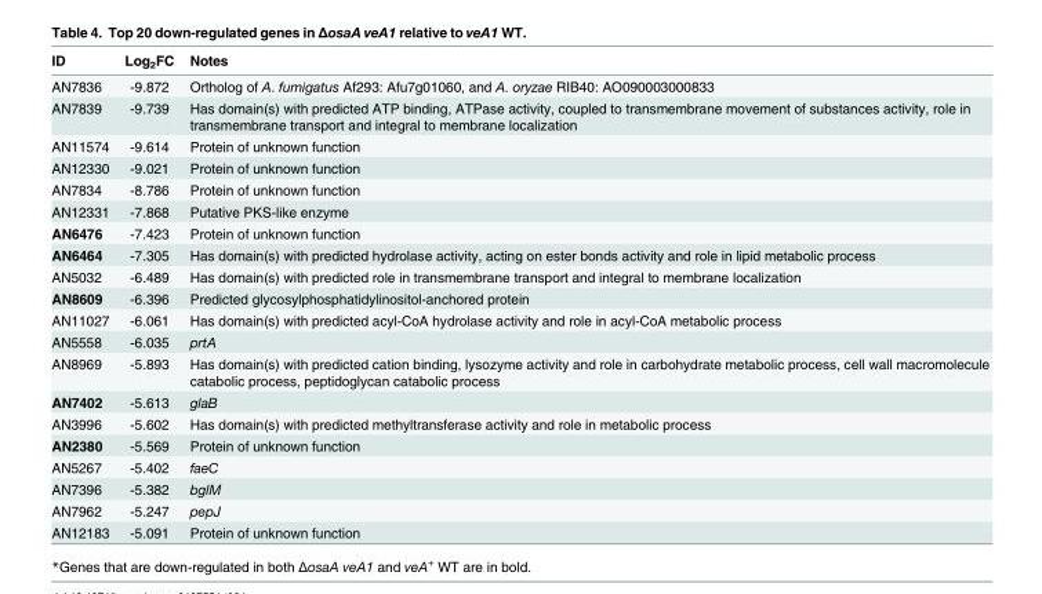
<table><thead><tr><td>ID</td><td>Log<sub>2</sub>FC</td><td>Notes</td></tr></thead><tbody><tr><td>AN7836</td><td>-9.872</td><td>Ortholog of A. fumigatus Af293: Afu7g01060, and A. oryzae RIB40: AO090003000833</td></tr><tr><td>AN7839</td><td>-9.739</td><td>Has domain(s) with predicted ATP binding, ATPase activity, coupled to transmembrane movement of substances activity, role in transmembrane transport and integral to membrane localization</td></tr><tr><td>AN11574</td><td>-9.614</td><td>Protein of unknown function</td></tr><tr><td>AN12330</td><td>-9.021</td><td>Protein of unknown function</td></tr><tr><td>AN7834</td><td>-8.786</td><td>Protein of unknown function</td></tr><tr><td>AN12331</td><td>-7.868</td><td>Putative PKS-like enzyme</td></tr><tr><td>AN6476</td><td>-7.423</td><td>Protein of unknown function</td></tr><tr><td>AN6464</td><td>-7.305</td><td>Has domain(s) with predicted hydrolase activity, acting on ester bonds activity and role in lipid metabolic process</td></tr><tr><td>AN5032</td><td>-6.489</td><td>Has domain(s) with predicted role in transmembrane transport and integral to membrane localization</td></tr><tr><td>AN8609</td><td>-6.396</td><td>Predicted glycosylphosphatidylinositol-anchored protein</td></tr><tr><td>AN11027</td><td>-6.061</td><td>Has domain(s) with predicted acyl-CoA hydrolase activity and role in acyl-CoA metabolic process</td></tr><tr><td>AN5558</td><td>-6.035</td><td>prtA</td></tr><tr><td>AN8969</td><td>-5.893</td><td>Has domain(s) with predicted cation binding, lysozyme activity and role in carbohydrate metabolic process, cell wall macromolecule catabolic process, peptidoglycan catabolic process</td></tr><tr><td>AN7402</td><td>-5.613</td><td>glaB</td></tr><tr><td>AN3996</td><td>-5.602</td><td>Has domain(s) with predicted methyltransferase activity and role in metabolic process</td></tr><tr><td>AN2380</td><td>-5.569</td><td>Protein of unknown function</td></tr><tr><td>AN5267</td><td>-5.402</td><td>faeC</td></tr><tr><td>AN7396</td><td>-5.382</td><td>bglM</td></tr><tr><td>AN7962</td><td>-5.247</td><td>pepJ</td></tr><tr><td>AN12183</td><td>-5.091</td><td>Protein of unknown function</td></tr></tbody></table>